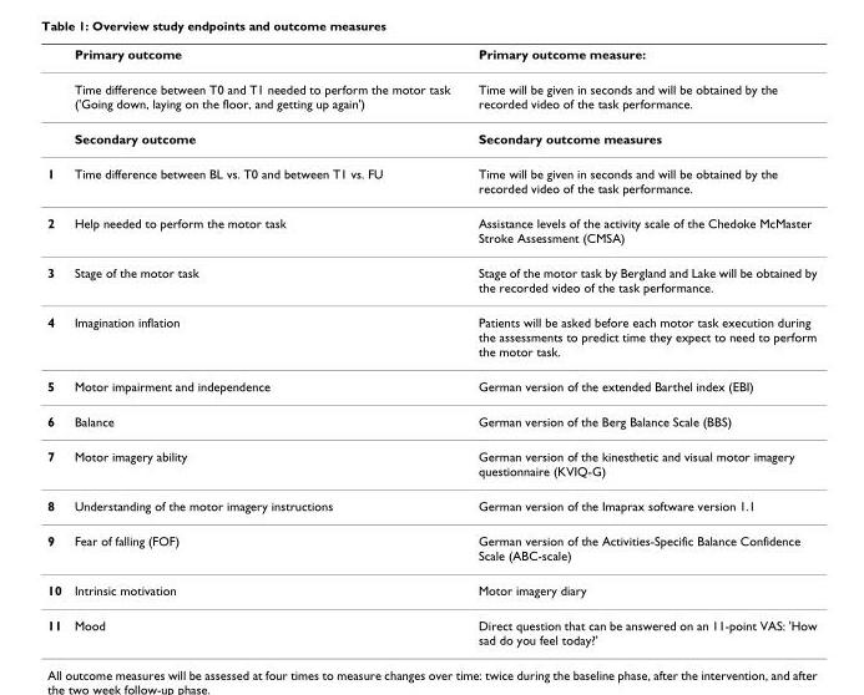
<table><thead><tr><td></td><td>Primary outcome</td><td>Primary outcome measure:</td></tr></thead><tbody><tr><td></td><td>Time difference between T0 and T1 needed to perform the motor task (&#x27;Going down, laying on the floor, and getting up again&#x27;)</td><td>Time will be given in seconds and will be obtained by the recorded video of the task performance.</td></tr><tr><td></td><td>Secondary outcome</td><td>Secondary outcome measures</td></tr><tr><td>1</td><td>Time difference between BL vs. T0 and between T1 vs. FU</td><td>Time will be given in seconds and will be obtained by the recorded video of the task performance.</td></tr><tr><td>2</td><td>Help needed to perform the motor task</td><td>Assistance levels of the activity scale of the Chedoke McMaster Stroke Assessment (CMSA)</td></tr><tr><td>3</td><td>Stage of the motor task</td><td>Stage of the motor task by Bergland and Lake will be obtained by the recorded video of the task performance.</td></tr><tr><td>4</td><td>Imagination inflation</td><td>Patients will be asked before each motor task execution during the assessments to predict time they expect to need to perform the motor task.</td></tr><tr><td>5</td><td>Motor impairment and independence</td><td>German version of the extended Barthel index (EBI)</td></tr><tr><td>6</td><td>Balance</td><td>German version of the Berg Balance Scale (BBS)</td></tr><tr><td>7</td><td>Motor imagery ability</td><td>German version of the kinesthetic and visual motor imagery questionnaire (KVIQ-G)</td></tr><tr><td>8</td><td>Understanding of the motor imagery instructions</td><td>German version of the Imaprax software version 1.1</td></tr><tr><td>9</td><td>Fear of falling (FOF)</td><td>German version of the Activities-Specific Balance Confidence Scale (ABC-scale)</td></tr><tr><td>10</td><td>Intrinsic motivation</td><td>Motor imagery diary</td></tr><tr><td>11</td><td>Mood</td><td>Direct question that can be answered on an 11-point VAS: &#x27;How sad do you feel today?&#x27;</td></tr></tbody></table>